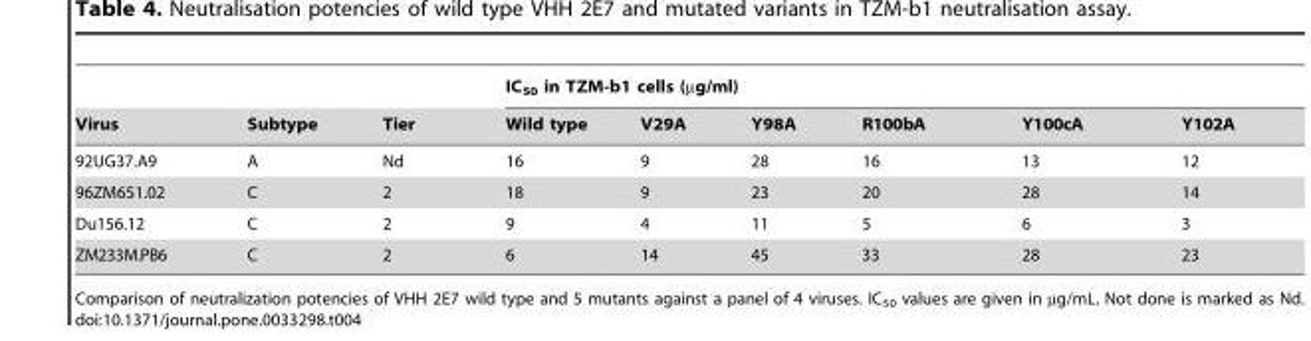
<table><thead><tr><td rowspan="2">Virus</td><td rowspan="2">Subtype</td><td rowspan="2">Tier</td><td colspan="6">IC<sub>50</sub> in TZM-b1 cells (µg/ml)</td></tr><tr><td>Wild type</td><td>V29A</td><td>Y98A</td><td>R100bA</td><td>Y100cA</td><td>Y102A</td></tr></thead><tbody><tr><td>92UG37.A9</td><td>A</td><td>Nd</td><td>16</td><td>9</td><td>28</td><td>16</td><td>13</td><td>12</td></tr><tr><td>96ZM651.02</td><td>C</td><td>2</td><td>18</td><td>9</td><td>23</td><td>20</td><td>28</td><td>14</td></tr><tr><td>Du156.12</td><td>C</td><td>2</td><td>9</td><td>4</td><td>11</td><td>5</td><td>6</td><td>3</td></tr><tr><td>ZM233M.PB6</td><td>C</td><td>2</td><td>6</td><td>14</td><td>45</td><td>33</td><td>28</td><td>23</td></tr></tbody></table>